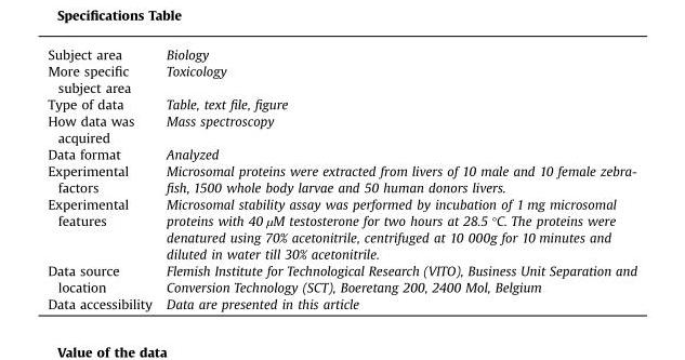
<table><thead><tr><td>Subject area</td><td>Biology</td></tr></thead><tbody><tr><td>More specific subject area</td><td>Toxicology</td></tr><tr><td>Type of data</td><td>Table, text file, figure</td></tr><tr><td>How data was acquired</td><td>Mass spectroscopy</td></tr><tr><td>Data format</td><td>Analyzed</td></tr><tr><td>Experimental factors</td><td>Microsomal proteins were extracted from livers of 10 male and 10 female zebra- fish, 1500 whole body larvae and 50 human donors livers.</td></tr><tr><td>Experimental features</td><td>Microsomal stability assay was performed by incubation of 1 mg microsomal proteins with 40 µM testosterone for two hours at 28.5 °C. The proteins were denatured using 70% acetonitrile, centrifuged at 10 000g for 10 minutes and diluted in water till 30% acetonitrile.</td></tr><tr><td>Data source location</td><td>Flemish Institute for Technological Research (VITO), Business Unit Separation and Conversion Technology (SCT), Boeretang 200, 2400 Mol, Belgium</td></tr><tr><td>Data accessibility</td><td>Data are presented in this article</td></tr></tbody></table>